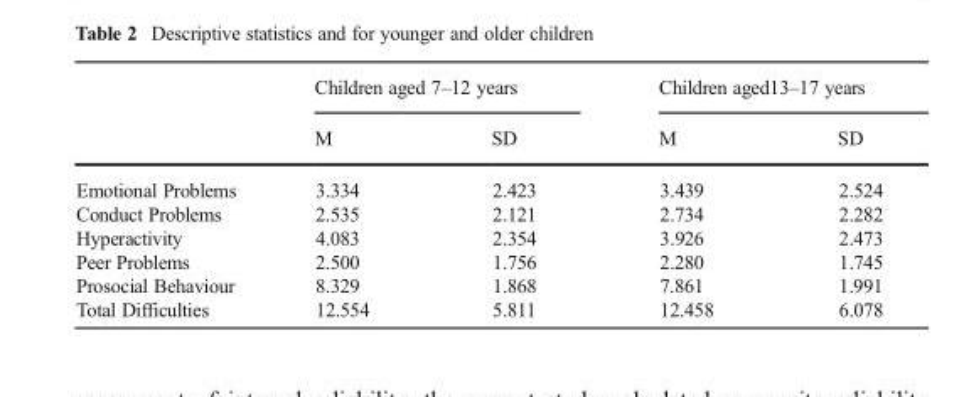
<table><thead><tr><td rowspan="2"></td><td colspan="2">Children aged 7–12 years</td><td colspan="2">Children aged13–17 years</td></tr><tr><td>M</td><td>SD</td><td>M</td><td>SD</td></tr></thead><tbody><tr><td>Emotional Problems</td><td>3.334</td><td>2.423</td><td>3.439</td><td>2.524</td></tr><tr><td>Conduct Problems</td><td>2.535</td><td>2.121</td><td>2.734</td><td>2.282</td></tr><tr><td>Hyperactivity</td><td>4.083</td><td>2.354</td><td>3.926</td><td>2.473</td></tr><tr><td>Peer Problems</td><td>2.500</td><td>1.756</td><td>2.280</td><td>1.745</td></tr><tr><td>Prosocial Behaviour</td><td>8.329</td><td>1.868</td><td>7.861</td><td>1.991</td></tr><tr><td>Total Difficulties</td><td>12.554</td><td>5.811</td><td>12.458</td><td>6.078</td></tr></tbody></table>